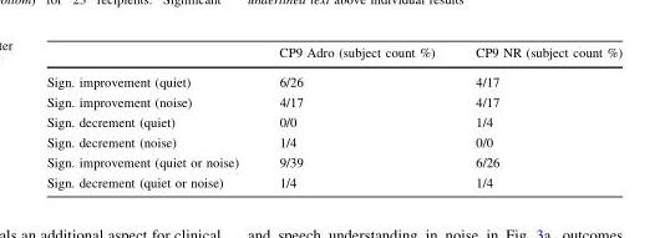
<table><thead><tr><td></td><td>CP9 Adro (subject count %)</td><td>CP9 NR (subject count %)</td></tr></thead><tbody><tr><td>Sign. improvement (quiet)</td><td>6/26</td><td>4/17</td></tr><tr><td>Sign. improvement (noise)</td><td>4/17</td><td>4/17</td></tr><tr><td>Sign. decrement (quiet)</td><td>0/0</td><td>1/4</td></tr><tr><td>Sign. decrement (noise)</td><td>1/4</td><td>0/0</td></tr><tr><td>Sign. improvement (quiet or noise)</td><td>9/39</td><td>6/26</td></tr><tr><td>Sign. decrement (quiet or noise)</td><td>1/4</td><td>1/4</td></tr></tbody></table>